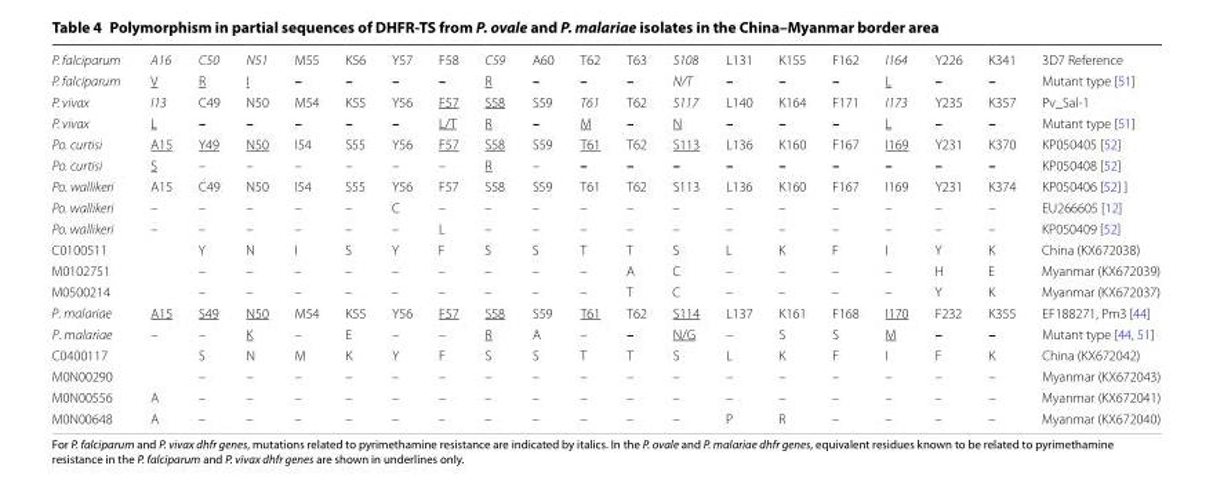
<table><tbody><tr><td>P. falciparum</td><td>A16</td><td>C50</td><td>N51</td><td>M55</td><td>K56</td><td>Y57</td><td>F58</td><td>C59</td><td>A60</td><td>T62</td><td>T63</td><td>S108</td><td>L131</td><td>K155</td><td>F162</td><td>I164</td><td>Y226</td><td>K341</td><td>3D7 Reference</td></tr><tr><td>P. falciparum</td><td>V</td><td>R</td><td>I</td><td>–</td><td>–</td><td>–</td><td>–</td><td>R</td><td>–</td><td>–</td><td>–</td><td>N/T</td><td>–</td><td>–</td><td>–</td><td>L</td><td>–</td><td>–</td><td>Mutant type [51]</td></tr><tr><td>P. vivax</td><td>I13</td><td>C49</td><td>N50</td><td>M54</td><td>K55</td><td>Y56</td><td>F57</td><td>S58</td><td>S59</td><td>T61</td><td>T62</td><td>S117</td><td>L140</td><td>K164</td><td>F171</td><td>I173</td><td>Y235</td><td>K357</td><td>Pv_Sal-1</td></tr><tr><td>P. vivax</td><td>L</td><td>–</td><td>–</td><td>–</td><td>–</td><td>–</td><td>L/T</td><td>R</td><td>–</td><td>M</td><td>–</td><td>N</td><td>–</td><td>–</td><td>–</td><td>L</td><td>–</td><td>–</td><td>Mutant type [51]</td></tr><tr><td>Po. curtisi</td><td>A15</td><td>Y49</td><td>N50</td><td>I54</td><td>S55</td><td>Y56</td><td>F57</td><td>S58</td><td>S59</td><td>T61</td><td>T62</td><td>S113</td><td>L136</td><td>K160</td><td>F167</td><td>I169</td><td>Y231</td><td>K370</td><td>KP050405 [52]</td></tr><tr><td>Po. curtisi</td><td>S</td><td>–</td><td>–</td><td>–</td><td>–</td><td>–</td><td>–</td><td>R</td><td>–</td><td>–</td><td>–</td><td>–</td><td>–</td><td>–</td><td>–</td><td>–</td><td>–</td><td>–</td><td>KP050408 [52]</td></tr><tr><td>Po. wallikeri</td><td>A15</td><td>C49</td><td>N50</td><td>I54</td><td>S55</td><td>Y56</td><td>F57</td><td>S58</td><td>S59</td><td>T61</td><td>T62</td><td>S113</td><td>L136</td><td>K160</td><td>F167</td><td>I169</td><td>Y231</td><td>K374</td><td>KP050406 [52] ]</td></tr><tr><td>Po. wallikeri</td><td>–</td><td>–</td><td>–</td><td>–</td><td>–</td><td>C</td><td>–</td><td>–</td><td>–</td><td>–</td><td>–</td><td>–</td><td>–</td><td>–</td><td>–</td><td>–</td><td>–</td><td>–</td><td>EU266605 [12]</td></tr><tr><td>Po. wallikeri</td><td>–</td><td>–</td><td>–</td><td>–</td><td>–</td><td>–</td><td>L</td><td>–</td><td>–</td><td>–</td><td>–</td><td>–</td><td>–</td><td>–</td><td>–</td><td>–</td><td>–</td><td>–</td><td>KP050409 [52]</td></tr><tr><td>C0100511</td><td></td><td>Y</td><td>N</td><td>I</td><td>S</td><td>Y</td><td>F</td><td>S</td><td>S</td><td>T</td><td>T</td><td>S</td><td>L</td><td>K</td><td>F</td><td>I</td><td>Y</td><td>K</td><td>China (KX672038)</td></tr><tr><td>M0102751</td><td></td><td>–</td><td>–</td><td>–</td><td>–</td><td>–</td><td>–</td><td>–</td><td>–</td><td>–</td><td>A</td><td>C</td><td>–</td><td>–</td><td>–</td><td>–</td><td>H</td><td>E</td><td>Myanmar (KX672039)</td></tr><tr><td>M0500214</td><td></td><td>–</td><td>–</td><td>–</td><td>–</td><td>–</td><td>–</td><td>–</td><td>–</td><td>–</td><td>T</td><td>C</td><td>–</td><td>–</td><td>–</td><td>–</td><td>Y</td><td>K</td><td>Myanmar (KX672037)</td></tr><tr><td>P. malariae</td><td>A15</td><td>S49</td><td>N50</td><td>M54</td><td>K55</td><td>Y56</td><td>F57</td><td>S58</td><td>S59</td><td>T61</td><td>T62</td><td>S114</td><td>L137</td><td>K161</td><td>F168</td><td>I170</td><td>F232</td><td>K355</td><td>EF188271, Pm3 [44]</td></tr><tr><td>P. malariae</td><td>–</td><td>–</td><td>K</td><td>–</td><td>E</td><td>–</td><td>–</td><td>R</td><td>A</td><td>–</td><td>–</td><td>N/G</td><td>–</td><td>S</td><td>S</td><td>M</td><td>–</td><td>–</td><td>Mutant type [44, 51]</td></tr><tr><td>C0400117</td><td></td><td>S</td><td>N</td><td>M</td><td>K</td><td>Y</td><td>F</td><td>S</td><td>S</td><td>T</td><td>T</td><td>S</td><td>L</td><td>K</td><td>F</td><td>I</td><td>F</td><td>K</td><td>China (KX672042)</td></tr><tr><td>M0N00290</td><td></td><td>–</td><td>–</td><td>–</td><td>–</td><td>–</td><td>–</td><td>–</td><td>–</td><td>–</td><td>–</td><td>–</td><td>–</td><td>–</td><td>–</td><td>–</td><td>–</td><td>–</td><td>Myanmar (KX672043)</td></tr><tr><td>M0N00556</td><td>A</td><td>–</td><td>–</td><td>–</td><td>–</td><td>–</td><td>–</td><td>–</td><td>–</td><td>–</td><td>–</td><td>–</td><td>–</td><td>–</td><td>–</td><td>–</td><td>–</td><td>–</td><td>Myanmar (KX672041)</td></tr><tr><td>M0N00648</td><td>A</td><td>–</td><td>–</td><td>–</td><td>–</td><td>–</td><td>–</td><td>–</td><td>–</td><td>–</td><td>–</td><td>–</td><td>P</td><td>R</td><td>–</td><td>–</td><td>–</td><td>–</td><td>Myanmar (KX672040)</td></tr></tbody></table>